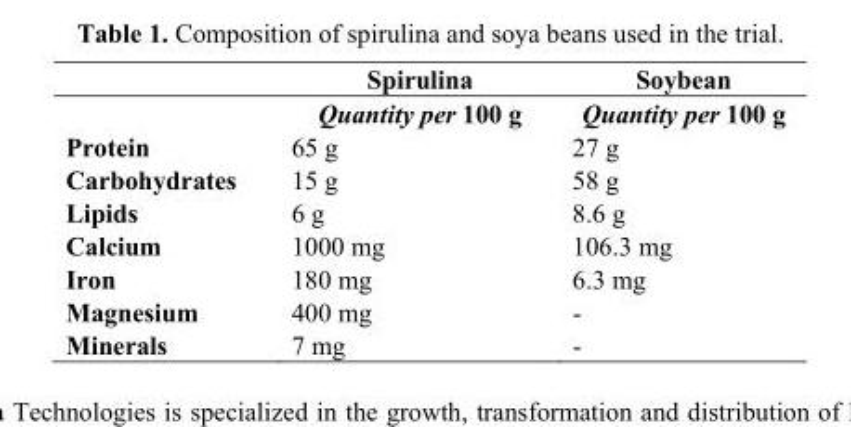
<table><thead><tr><td></td><td>Spirulina</td><td>Soybean</td></tr></thead><tbody><tr><td></td><td>Quantity per 100 g</td><td>Quantity per 100 g</td></tr><tr><td>Protein</td><td>65 g</td><td>27 g</td></tr><tr><td>Carbohydrates</td><td>15 g</td><td>58 g</td></tr><tr><td>Lipids</td><td>6 g</td><td>8.6 g</td></tr><tr><td>Calcium</td><td>1000 mg</td><td>106.3 mg</td></tr><tr><td>Iron</td><td>180 mg</td><td>6.3 mg</td></tr><tr><td>Magnesium</td><td>400 mg</td><td>-</td></tr><tr><td>Minerals</td><td>7 mg</td><td>-</td></tr></tbody></table>